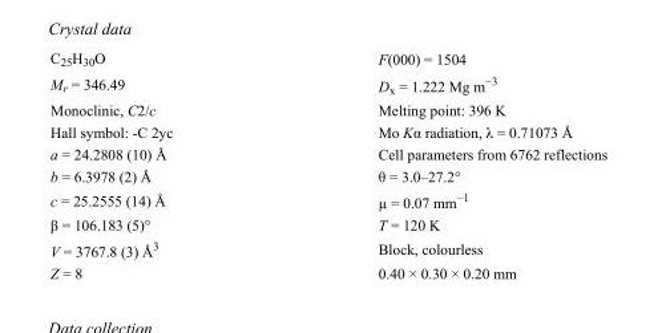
<table><tbody><tr><td>C<sub>25</sub>H<sub>30</sub>O</td><td>F(000) = 1504</td></tr><tr><td>M<sub>r</sub> = 346.49</td><td>D<sub>x</sub> = 1.222 Mg m<sup>−3</sup></td></tr><tr><td>Monoclinic, C2/c</td><td>Melting point: 396 K</td></tr><tr><td>Hall symbol: -C 2yc</td><td>Mo Kα radiation, λ = 0.71073 Å</td></tr><tr><td>a = 24.2808 (10) Å</td><td>Cell parameters from 6762 reflections</td></tr><tr><td>b = 6.3978 (2) Å</td><td>θ = 3.0–27.2°</td></tr><tr><td>c = 25.2555 (14) Å</td><td>µ = 0.07 mm<sup>−1</sup></td></tr><tr><td>β = 106.183 (5)°</td><td>T = 120 K</td></tr><tr><td>V = 3767.8 (3) Å<sup>3</sup></td><td>Block, colourless</td></tr><tr><td>Z = 8</td><td>0.40 × 0.30 × 0.20 mm</td></tr></tbody></table>